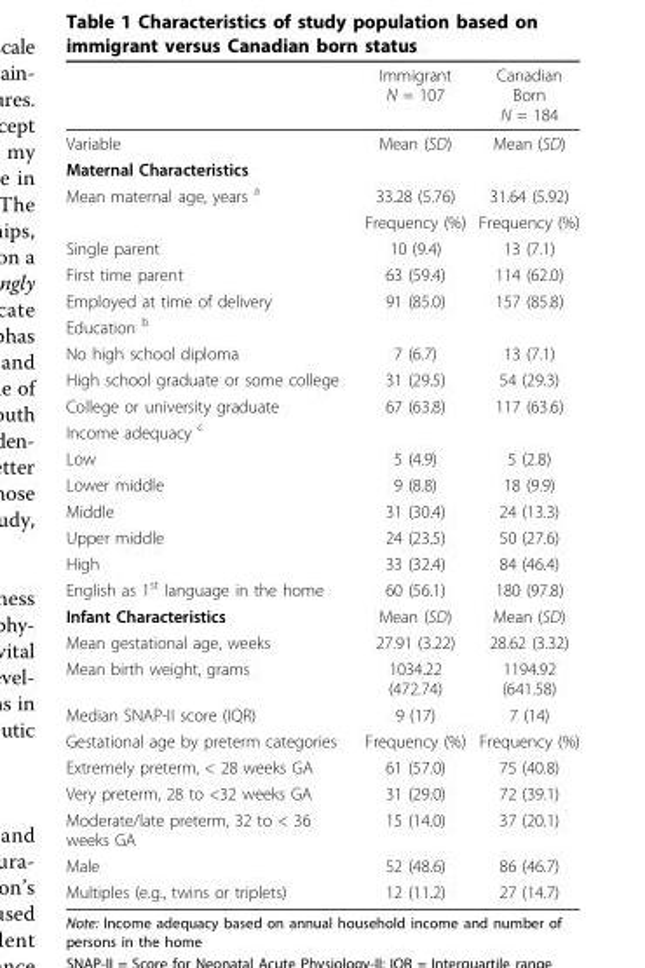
<table><thead><tr><td></td><td>Immigrant N = 107</td><td>Canadian Born N = 184</td></tr></thead><tbody><tr><td>Variable</td><td>Mean (SD)</td><td>Mean (SD)</td></tr><tr><td colspan="3">Maternal Characteristics</td></tr><tr><td rowspan="2">Mean maternal age, years <sup>a</sup></td><td>33.28 (5.76)</td><td>31.64 (5.92)</td></tr><tr><td>Frequency (%)</td><td>Frequency (%)</td></tr><tr><td>Single parent</td><td>10 (9.4)</td><td>13 (7.1)</td></tr><tr><td>First time parent</td><td>63 (59.4)</td><td>114 (62.0)</td></tr><tr><td>Employed at time of delivery</td><td>91 (85.0)</td><td>157 (85.8)</td></tr><tr><td colspan="3">Education <sup>b</sup></td></tr><tr><td>No high school diploma</td><td>7 (6.7)</td><td>13 (7.1)</td></tr><tr><td>High school graduate or some college</td><td>31 (29.5)</td><td>54 (29.3)</td></tr><tr><td>College or university graduate</td><td>67 (63.8)</td><td>117 (63.6)</td></tr><tr><td colspan="3">Income adequacy <sup>c</sup></td></tr><tr><td>Low</td><td>5 (4.9)</td><td>5 (2.8)</td></tr><tr><td>Lower middle</td><td>9 (8.8)</td><td>18 (9.9)</td></tr><tr><td>Middle</td><td>31 (30.4)</td><td>24 (13.3)</td></tr><tr><td>Upper middle</td><td>24 (23.5)</td><td>50 (27.6)</td></tr><tr><td>High</td><td>33 (32.4)</td><td>84 (46.4)</td></tr><tr><td>English as 1<sup>st</sup> language in the home</td><td>60 (56.1)</td><td>180 (97.8)</td></tr><tr><td>Infant Characteristics</td><td>Mean (SD)</td><td>Mean (SD)</td></tr><tr><td>Mean gestational age, weeks</td><td>27.91 (3.22)</td><td>28.62 (3.32)</td></tr><tr><td>Mean birth weight, grams</td><td>1034.22 (472.74)</td><td>1194.92 (641.58)</td></tr><tr><td>Median SNAP-II score (IQR)</td><td>9 (17)</td><td>7 (14)</td></tr><tr><td>Gestational age by preterm categories</td><td>Frequency (%)</td><td>Frequency (%)</td></tr><tr><td>Extremely preterm, &lt; 28 weeks GA</td><td>61 (57.0)</td><td>75 (40.8)</td></tr><tr><td>Very preterm, 28 to &lt;32 weeks GA</td><td>31 (29.0)</td><td>72 (39.1)</td></tr><tr><td>Moderate/late preterm, 32 to &lt; 36 weeks GA</td><td>15 (14.0)</td><td>37 (20.1)</td></tr><tr><td>Male</td><td>52 (48.6)</td><td>86 (46.7)</td></tr><tr><td>Multiples (e.g., twins or triplets)</td><td>12 (11.2)</td><td>27 (14.7)</td></tr></tbody></table>